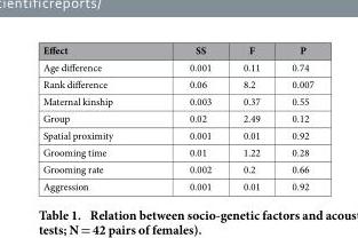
<table><thead><tr><td>Effect</td><td>SS</td><td>F</td><td>P</td></tr></thead><tbody><tr><td>Age difference</td><td>0.001</td><td>0.11</td><td>0.74</td></tr><tr><td>Rank difference</td><td>0.06</td><td>8.2</td><td>0.007</td></tr><tr><td>Maternal kinship</td><td>0.003</td><td>0.37</td><td>0.55</td></tr><tr><td>Group</td><td>0.02</td><td>2.49</td><td>0.12</td></tr><tr><td>Spatial proximity</td><td>0.001</td><td>0.01</td><td>0.92</td></tr><tr><td>Grooming time</td><td>0.01</td><td>1.22</td><td>0.28</td></tr><tr><td>Grooming rate</td><td>0.002</td><td>0.2</td><td>0.66</td></tr><tr><td>Aggression</td><td>0.001</td><td>0.01</td><td>0.92</td></tr></tbody></table>